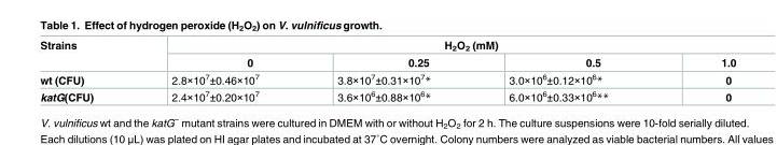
<table><thead><tr><td rowspan="2">Strains</td><td colspan="4">H<sub>2</sub>O<sub>2</sub> (mM)</td></tr><tr><td>0</td><td>0.25</td><td>0.5</td><td>1.0</td></tr></thead><tbody><tr><td>wt (CFU)</td><td>2.8×10<sup>7</sup>±0.46×10<sup>7</sup></td><td>3.8×10<sup>7</sup>±0.31×10<sup>7</sup>*</td><td>3.0×10<sup>6</sup>±0.12×10<sup>6</sup>*</td><td>0</td></tr><tr><td>katG¯(CFU)</td><td>2.4×10<sup>7</sup>±0.20×10<sup>7</sup></td><td>3.6×10<sup>6</sup>±0.88×10<sup>6</sup>*</td><td>6.0×10<sup>6</sup>±0.33×10<sup>6</sup>**</td><td>0</td></tr></tbody></table>